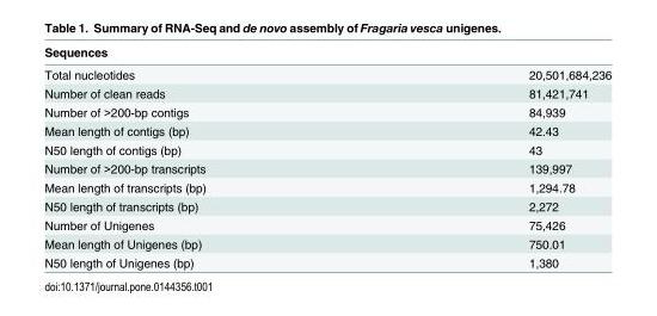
<table><thead><tr><td>Sequences</td><td></td></tr></thead><tbody><tr><td>Total nucleotides</td><td>20,501,684,236</td></tr><tr><td>Number of clean reads</td><td>81,421,741</td></tr><tr><td>Number of &gt;200-bp contigs</td><td>84,939</td></tr><tr><td>Mean length of contigs (bp)</td><td>42.43</td></tr><tr><td>N50 length of contigs (bp)</td><td>43</td></tr><tr><td>Number of &gt;200-bp transcripts</td><td>139,997</td></tr><tr><td>Mean length of transcripts (bp)</td><td>1,294.78</td></tr><tr><td>N50 length of transcripts (bp)</td><td>2,272</td></tr><tr><td>Number of Unigenes</td><td>75,426</td></tr><tr><td>Mean length of Unigenes (bp)</td><td>750.01</td></tr><tr><td>N50 length of Unigenes (bp)</td><td>1,380</td></tr></tbody></table>